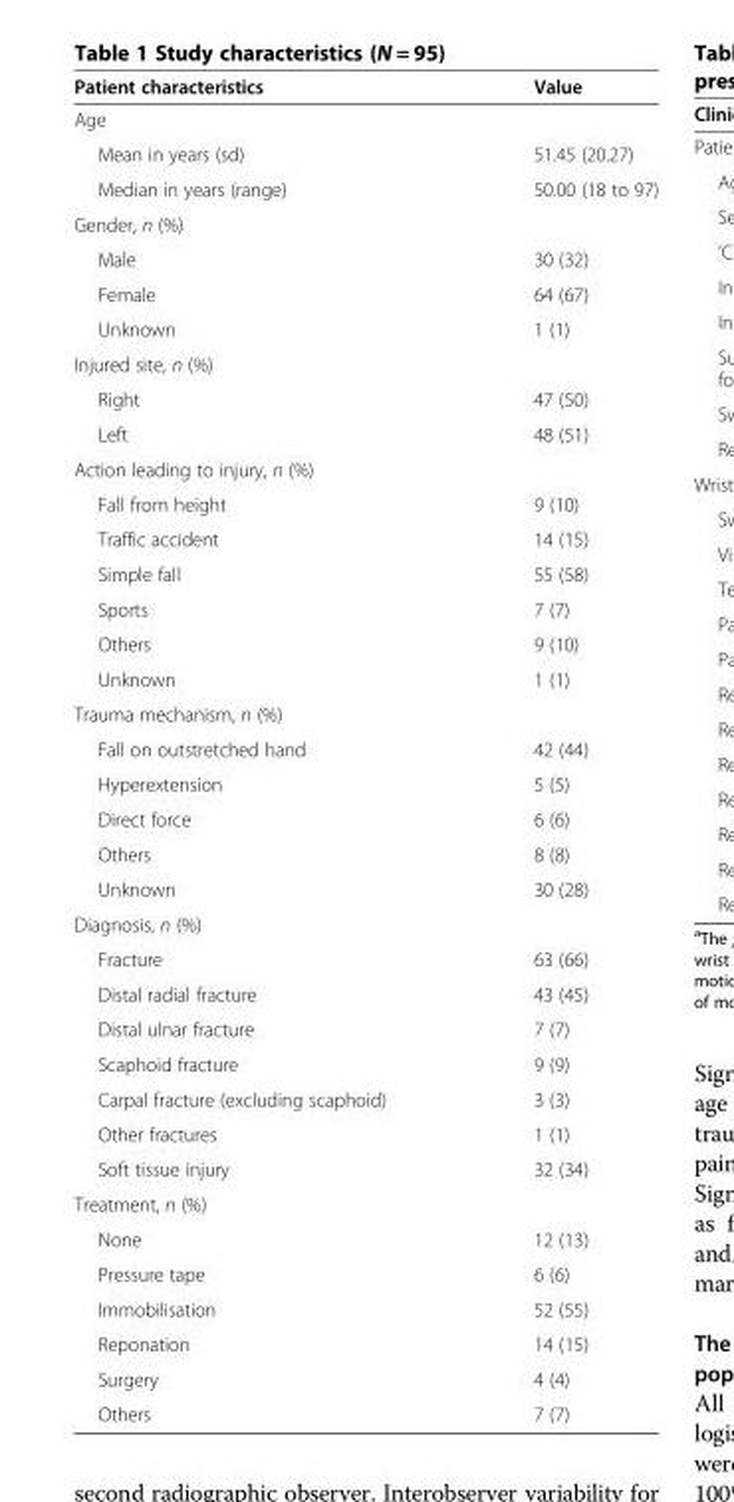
<table><thead><tr><td>Patient characteristics</td><td>Value</td></tr></thead><tbody><tr><td colspan="2">Age</td></tr><tr><td>Mean in years (sd)</td><td>51.45 (20.27)</td></tr><tr><td>Median in years (range)</td><td>50.00 (18 to 97)</td></tr><tr><td colspan="2">Gender, n (%)</td></tr><tr><td>Male</td><td>30 (32)</td></tr><tr><td>Female</td><td>64 (67)</td></tr><tr><td>Unknown</td><td>1 (1)</td></tr><tr><td colspan="2">Injured site, n (%)</td></tr><tr><td>Right</td><td>47 (50)</td></tr><tr><td>Left</td><td>48 (51)</td></tr><tr><td colspan="2">Action leading to injury, n (%)</td></tr><tr><td>Fall from height</td><td>9 (10)</td></tr><tr><td>Traffic accident</td><td>14 (15)</td></tr><tr><td>Simple fall</td><td>55 (58)</td></tr><tr><td>Sports</td><td>7 (7)</td></tr><tr><td>Others</td><td>9 (10)</td></tr><tr><td>Unknown</td><td>1 (1)</td></tr><tr><td colspan="2">Trauma mechanism, n (%)</td></tr><tr><td>Fall on outstretched hand</td><td>42 (44)</td></tr><tr><td>Hyperextension</td><td>5 (5)</td></tr><tr><td>Direct force</td><td>6 (6)</td></tr><tr><td>Others</td><td>8 (8)</td></tr><tr><td>Unknown</td><td>30 (28)</td></tr><tr><td colspan="2">Diagnosis, n (%)</td></tr><tr><td>Fracture</td><td>63 (66)</td></tr><tr><td>Distal radial fracture</td><td>43 (45)</td></tr><tr><td>Distal ulnar fracture</td><td>7 (7)</td></tr><tr><td>Scaphoid fracture</td><td>9 (9)</td></tr><tr><td>Carpal fracture (excluding scaphoid)</td><td>3 (3)</td></tr><tr><td>Other fractures</td><td>1 (1)</td></tr><tr><td>Soft tissue injury</td><td>32 (34)</td></tr><tr><td colspan="2">Treatment, n (%)</td></tr><tr><td>None</td><td>12 (13)</td></tr><tr><td>Pressure tape</td><td>6 (6)</td></tr><tr><td>Immobilisation</td><td>52 (55)</td></tr><tr><td>Reponation</td><td>14 (15)</td></tr><tr><td>Surgery</td><td>4 (4)</td></tr><tr><td>Others</td><td>7 (7)</td></tr></tbody></table>